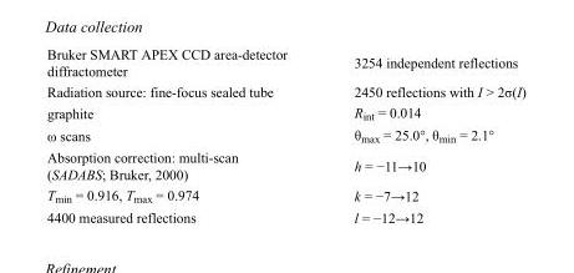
<table><tbody><tr><td>Bruker SMART APEX CCD area-detector diffractometer</td><td>3254 independent reflections</td></tr><tr><td>Radiation source: fine-focus sealed tube</td><td>2450 reflections with I &gt; 2σ(I)</td></tr><tr><td>graphite</td><td>R<sub>int</sub> = 0.014</td></tr><tr><td>ω scans</td><td>θ<sub>max</sub> = 25.0°, θ<sub>min</sub> = 2.1°</td></tr><tr><td>Absorption correction: multi-scan (SADABS; Bruker, 2000)</td><td>h = −11→10</td></tr><tr><td>T<sub>min</sub> = 0.916, T<sub>max</sub> = 0.974</td><td>k = −7→12</td></tr><tr><td>4400 measured reflections</td><td>l = −12→12</td></tr></tbody></table>